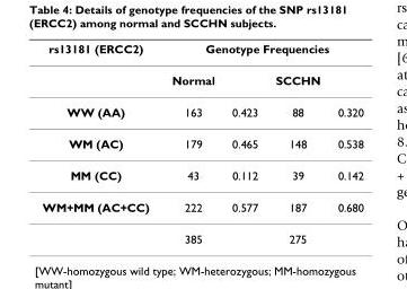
<table><thead><tr><td rowspan="2">rs13181 (ERCC2)</td><td colspan="4">Genotype Frequencies</td></tr><tr><td>Normal</td><td></td><td>SCCHN</td><td></td></tr></thead><tbody><tr><td>WW (AA)</td><td>163</td><td>0.423</td><td>88</td><td>0.320</td></tr><tr><td>WM (AC)</td><td>179</td><td>0.465</td><td>148</td><td>0.538</td></tr><tr><td>MM (CC)</td><td>43</td><td>0.112</td><td>39</td><td>0.142</td></tr><tr><td rowspan="2">WM+MM (AC+CC)</td><td>222</td><td>0.577</td><td>187</td><td>0.680</td></tr><tr><td>385</td><td></td><td>275</td><td></td></tr></tbody></table>